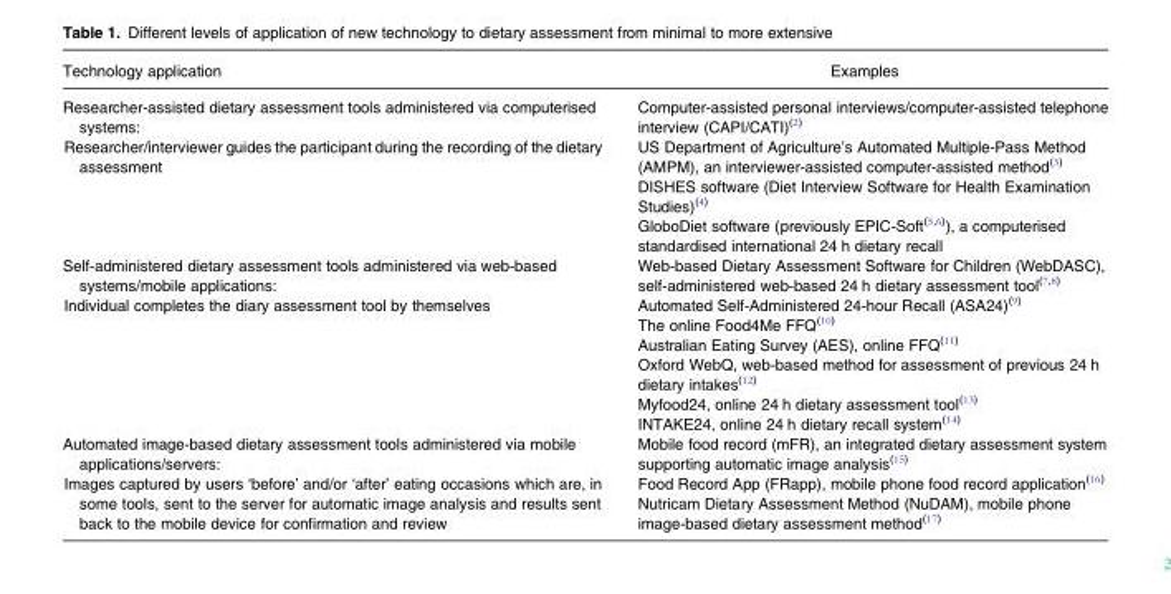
<table><thead><tr><td>Technology application</td><td>Examples</td></tr></thead><tbody><tr><td>Researcher-assisted dietary assessment tools administered via computerised systems: Researcher/interviewer guides the participant during the recording of the dietary assessment</td><td>Computer-assisted personal interviews/computer-assisted telephone interview (CAPI/CATI)<sup>(2)</sup> US Department of Agriculture’s Automated Multiple-Pass Method (AMPM), an interviewer-assisted computer-assisted method<sup>(3)</sup> DISHES software (Diet Interview Software for Health Examination Studies)<sup>(4)</sup> GloboDiet software (previously EPIC-Soft<sup>(5,6)</sup>), a computerised standardised international 24 h dietary recall</td></tr><tr><td>Self-administered dietary assessment tools administered via web-based systems/mobile applications: Individual completes the diary assessment tool by themselves</td><td>Web-based Dietary Assessment Software for Children (WebDASC), self-administered web-based 24 h dietary assessment tool<sup>(7,8)</sup> Automated Self-Administered 24-hour Recall (ASA24)<sup>(9)</sup> The online Food4Me FFQ<sup>(10)</sup> Australian Eating Survey (AES), online FFQ<sup>(11)</sup> Oxford WebQ, web-based method for assessment of previous 24 h dietary intakes<sup>(12)</sup> Myfood24, online 24 h dietary assessment tool<sup>(13)</sup> INTAKE24, online 24 h dietary recall system<sup>(14)</sup></td></tr><tr><td>Automated image-based dietary assessment tools administered via mobile applications/servers: Images captured by users ‘before’ and/or ‘after’ eating occasions which are, in some tools, sent to the server for automatic image analysis and results sent back to the mobile device for confirmation and review</td><td>Mobile food record (mFR), an integrated dietary assessment system supporting automatic image analysis<sup>(15)</sup> Food Record App (FRapp), mobile phone food record application<sup>(16)</sup> Nutricam Dietary Assessment Method (NuDAM), mobile phone image-based dietary assessment method<sup>(17)</sup></td></tr></tbody></table>